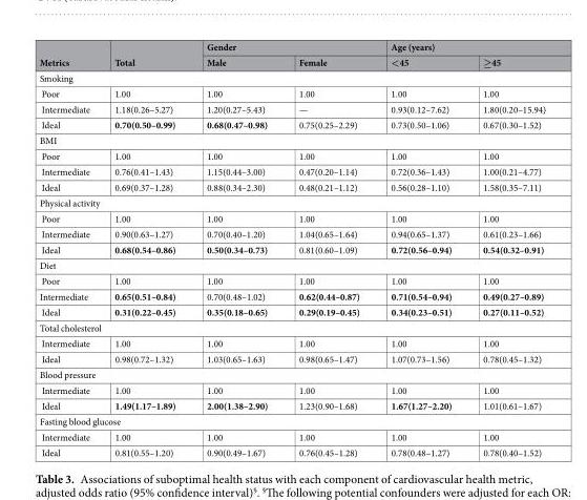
<table><thead><tr><td rowspan="2">Metrics</td><td rowspan="2">Total</td><td colspan="2">Gender</td><td colspan="2">Age (years)</td></tr><tr><td>Male</td><td>Female</td><td>&lt;45</td><td>≥45</td></tr></thead><tbody><tr><td colspan="6">Smoking</td></tr><tr><td>Poor</td><td>1.00</td><td>1.00</td><td>1.00</td><td>1.00</td><td>1.00</td></tr><tr><td>Intermediate</td><td>1.18(0.26–5.27)</td><td>1.20(0.27–5.43)</td><td>—</td><td>0.93(0.12–7.62)</td><td>1.80(0.20–15.94)</td></tr><tr><td>Ideal</td><td>0.70(0.50–0.99)</td><td>0.68(0.47–0.98)</td><td>0.75(0.25–2.29)</td><td>0.73(0.50–1.06)</td><td>0.67(0.30–1.52)</td></tr><tr><td colspan="6">BMI</td></tr><tr><td>Poor</td><td>1.00</td><td>1.00</td><td>1.00</td><td>1.00</td><td>1.00</td></tr><tr><td>Intermediate</td><td>0.76(0.41–1.43)</td><td>1.15(0.44–3.00)</td><td>0.47(0.20–1.14)</td><td>0.72(0.36–1.43)</td><td>1.00(0.21–4.77)</td></tr><tr><td>Ideal</td><td>0.69(0.37–1.28)</td><td>0.88(0.34–2.30)</td><td>0.48(0.21–1.12)</td><td>0.56(0.28–1.10)</td><td>1.58(0.35–7.11)</td></tr><tr><td colspan="6">Physical activity</td></tr><tr><td>Poor</td><td>1.00</td><td>1.00</td><td>1.00</td><td>1.00</td><td>1.00</td></tr><tr><td>Intermediate</td><td>0.90(0.63–1.27)</td><td>0.70(0.40–1.20)</td><td>1.04(0.65–1.64)</td><td>0.94(0.65–1.37)</td><td>0.61(0.23–1.66)</td></tr><tr><td>Ideal</td><td>0.68(0.54–0.86)</td><td>0.50(0.34–0.73)</td><td>0.81(0.60–1.09)</td><td>0.72(0.56–0.94)</td><td>0.54(0.32–0.91)</td></tr><tr><td colspan="6">Diet</td></tr><tr><td>Poor</td><td>1.00</td><td>1.00</td><td>1.00</td><td>1.00</td><td>1.00</td></tr><tr><td>Intermediate</td><td>0.65(0.51–0.84)</td><td>0.70(0.48–1.02)</td><td>0.62(0.44–0.87)</td><td>0.71(0.54–0.94)</td><td>0.49(0.27–0.89)</td></tr><tr><td>Ideal</td><td>0.31(0.22–0.45)</td><td>0.35(0.18–0.65)</td><td>0.29(0.19–0.45)</td><td>0.34(0.23–0.51)</td><td>0.27(0.11–0.52)</td></tr><tr><td colspan="6">Total cholesterol</td></tr><tr><td>Intermediate</td><td>1.00</td><td>1.00</td><td>1.00</td><td>1.00</td><td>1.00</td></tr><tr><td>Ideal</td><td>0.98(0.72–1.32)</td><td>1.03(0.65–1.63)</td><td>0.98(0.65–1.47)</td><td>1.07(0.73–1.56)</td><td>0.78(0.45–1.32)</td></tr><tr><td colspan="6">Blood pressure</td></tr><tr><td>Intermediate</td><td>1.00</td><td>1.00</td><td>1.00</td><td>1.00</td><td>1.00</td></tr><tr><td>Ideal</td><td>1.49(1.17–1.89)</td><td>2.00(1.38–2.90)</td><td>1.23(0.90–1.68)</td><td>1.67(1.27–2.20)</td><td>1.01(0.61–1.67)</td></tr><tr><td colspan="6">Fasting blood glucose</td></tr><tr><td>Intermediate</td><td>1.00</td><td>1.00</td><td>1.00</td><td>1.00</td><td>1.00</td></tr><tr><td>Ideal</td><td>0.81(0.55–1.20)</td><td>0.90(0.49–1.67)</td><td>0.76(0.45–1.28)</td><td>0.78(0.48–1.27)</td><td>0.78(0.40–1.52)</td></tr></tbody></table>